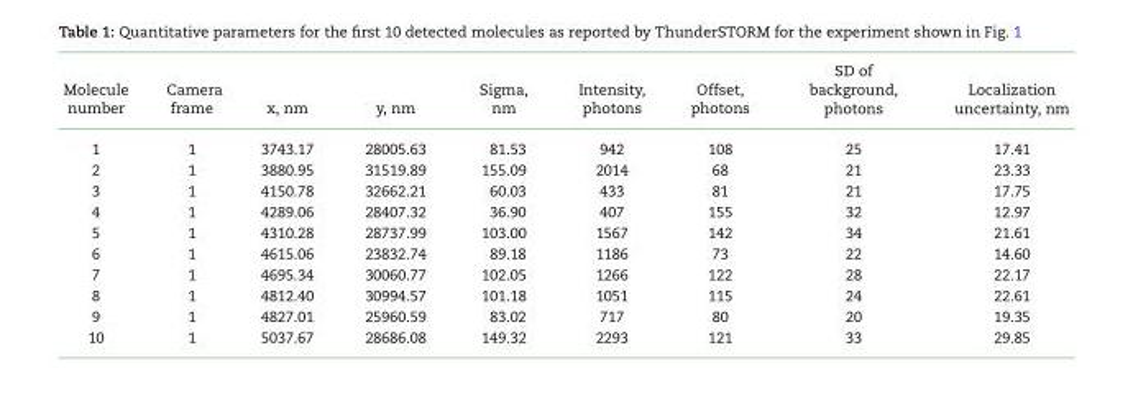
<table><thead><tr><td>Molecule number</td><td>Camera frame</td><td>x, nm</td><td>y, nm</td><td>Sigma, nm</td><td>Intensity, photons</td><td>Offset, photons</td><td>SD of background, photons</td><td>Localization uncertainty, nm</td></tr></thead><tbody><tr><td>1</td><td>1</td><td>3743.17</td><td>28005.63</td><td>81.53</td><td>942</td><td>108</td><td>25</td><td>17.41</td></tr><tr><td>2</td><td>1</td><td>3880.95</td><td>31519.89</td><td>155.09</td><td>2014</td><td>68</td><td>21</td><td>23.33</td></tr><tr><td>3</td><td>1</td><td>4150.78</td><td>32662.21</td><td>60.03</td><td>433</td><td>81</td><td>21</td><td>17.75</td></tr><tr><td>4</td><td>1</td><td>4289.06</td><td>28407.32</td><td>36.90</td><td>407</td><td>155</td><td>32</td><td>12.97</td></tr><tr><td>5</td><td>1</td><td>4310.28</td><td>28737.99</td><td>103.00</td><td>1567</td><td>142</td><td>34</td><td>21.61</td></tr><tr><td>6</td><td>1</td><td>4615.06</td><td>23832.74</td><td>89.18</td><td>1186</td><td>73</td><td>22</td><td>14.60</td></tr><tr><td>7</td><td>1</td><td>4695.34</td><td>30060.77</td><td>102.05</td><td>1266</td><td>122</td><td>28</td><td>22.17</td></tr><tr><td>8</td><td>1</td><td>4812.40</td><td>30994.57</td><td>101.18</td><td>1051</td><td>115</td><td>24</td><td>22.61</td></tr><tr><td>9</td><td>1</td><td>4827.01</td><td>25960.59</td><td>83.02</td><td>717</td><td>80</td><td>20</td><td>19.35</td></tr><tr><td>10</td><td>1</td><td>5037.67</td><td>28686.08</td><td>149.32</td><td>2293</td><td>121</td><td>33</td><td>29.85</td></tr></tbody></table>